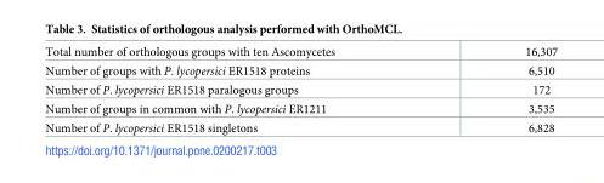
<table><tbody><tr><td>Total number of orthologous groups with ten Ascomycetes</td><td>16,307</td></tr><tr><td>Number of groups with P. lycopersici ER1518 proteins</td><td>6,510</td></tr><tr><td>Number of P. lycopersici ER1518 paralogous groups</td><td>172</td></tr><tr><td>Number of groups in common with P. lycopersici ER1211</td><td>3,535</td></tr><tr><td>Number of P. lycopersici ER1518 singletons</td><td>6,828</td></tr></tbody></table>